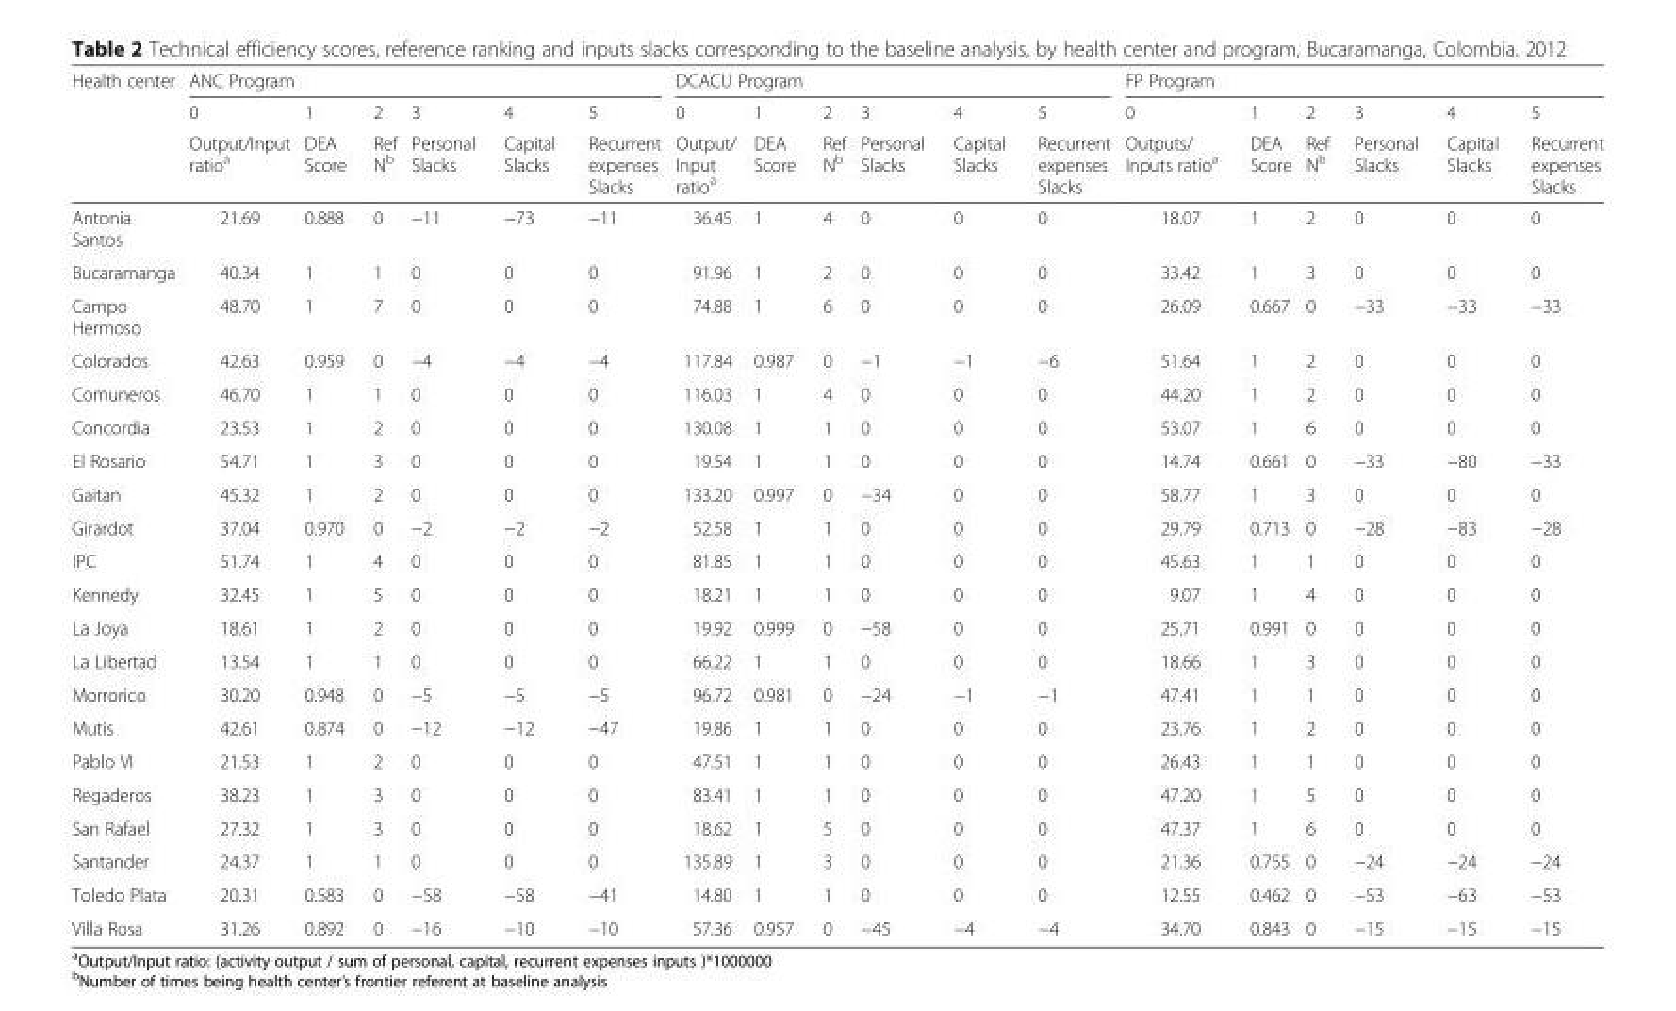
<table><thead><tr><td rowspan="3">Health center</td><td colspan="6">ANC Program</td><td colspan="6">DCACU Program</td><td colspan="6">FP Program</td></tr><tr><td rowspan="2">0 Output/Input ratioa</td><td rowspan="2">1 DEA Score</td><td rowspan="2">2 Ref Nb</td><td rowspan="2">3 Personal Slacks</td><td rowspan="2">4 Capital Slacks</td><td rowspan="2">5 Recurrent expenses Slacks</td><td rowspan="2">0 Output/ Input ratioa</td><td rowspan="2">1 DEA Score</td><td rowspan="2">2 Ref Nb</td><td rowspan="2">3 Personal Slacks</td><td rowspan="2">4 Capital Slacks</td><td rowspan="2">5 Recurrent expenses Slacks</td><td rowspan="2">0 Outputs/ Inputs ratioa</td><td rowspan="2">1 DEA Score</td><td rowspan="2">2 Ref Nb</td><td rowspan="2">3 Personal Slacks</td><td rowspan="2">4 Capital Slacks</td><td rowspan="2">5 Recurrent expenses Slacks</td></tr><tr></tr></thead><tbody><tr><td>Antonia Santos</td><td>21.69</td><td>0.888</td><td>0</td><td>−11</td><td>−73</td><td>−11</td><td>36.45</td><td>1</td><td>4</td><td>0</td><td>0</td><td>0</td><td>18.07</td><td>1</td><td>2</td><td>0</td><td>0</td><td>0</td></tr><tr><td>Bucaramanga</td><td>40.34</td><td>1</td><td>1</td><td>0</td><td>0</td><td>0</td><td>91.96</td><td>1</td><td>2</td><td>0</td><td>0</td><td>0</td><td>33.42</td><td>1</td><td>3</td><td>0</td><td>0</td><td>0</td></tr><tr><td>Campo Hermoso</td><td>48.70</td><td>1</td><td>7</td><td>0</td><td>0</td><td>0</td><td>74.88</td><td>1</td><td>6</td><td>0</td><td>0</td><td>0</td><td>26.09</td><td>0.667</td><td>0</td><td>−33</td><td>−33</td><td>−33</td></tr><tr><td>Colorados</td><td>42.63</td><td>0.959</td><td>0</td><td>−4</td><td>−4</td><td>−4</td><td>117.84</td><td>0.987</td><td>0</td><td>−1</td><td>−1</td><td>−6</td><td>51.64</td><td>1</td><td>2</td><td>0</td><td>0</td><td>0</td></tr><tr><td>Comuneros</td><td>46.70</td><td>1</td><td>1</td><td>0</td><td>0</td><td>0</td><td>116.03</td><td>1</td><td>4</td><td>0</td><td>0</td><td>0</td><td>44.20</td><td>1</td><td>2</td><td>0</td><td>0</td><td>0</td></tr><tr><td>Concordia</td><td>23.53</td><td>1</td><td>2</td><td>0</td><td>0</td><td>0</td><td>130.08</td><td>1</td><td>1</td><td>0</td><td>0</td><td>0</td><td>53.07</td><td>1</td><td>6</td><td>0</td><td>0</td><td>0</td></tr><tr><td>El Rosario</td><td>54.71</td><td>1</td><td>3</td><td>0</td><td>0</td><td>0</td><td>19.54</td><td>1</td><td>1</td><td>0</td><td>0</td><td>0</td><td>14.74</td><td>0.661</td><td>0</td><td>−33</td><td>−80</td><td>−33</td></tr><tr><td>Gaitan</td><td>45.32</td><td>1</td><td>2</td><td>0</td><td>0</td><td>0</td><td>133.20</td><td>0.997</td><td>0</td><td>−34</td><td>0</td><td>0</td><td>58.77</td><td>1</td><td>3</td><td>0</td><td>0</td><td>0</td></tr><tr><td>Girardot</td><td>37.04</td><td>0.970</td><td>0</td><td>−2</td><td>−2</td><td>−2</td><td>52.58</td><td>1</td><td>1</td><td>0</td><td>0</td><td>0</td><td>29.79</td><td>0.713</td><td>0</td><td>−28</td><td>−83</td><td>−28</td></tr><tr><td>IPC</td><td>51.74</td><td>1</td><td>4</td><td>0</td><td>0</td><td>0</td><td>81.85</td><td>1</td><td>1</td><td>0</td><td>0</td><td>0</td><td>45.63</td><td>1</td><td>1</td><td>0</td><td>0</td><td>0</td></tr><tr><td>Kennedy</td><td>32.45</td><td>1</td><td>5</td><td>0</td><td>0</td><td>0</td><td>18.21</td><td>1</td><td>1</td><td>0</td><td>0</td><td>0</td><td>9.07</td><td>1</td><td>4</td><td>0</td><td>0</td><td>0</td></tr><tr><td>La Joya</td><td>18.61</td><td>1</td><td>2</td><td>0</td><td>0</td><td>0</td><td>19.92</td><td>0.999</td><td>0</td><td>−58</td><td>0</td><td>0</td><td>25.71</td><td>0.991</td><td>0</td><td>0</td><td>0</td><td>0</td></tr><tr><td>La Libertad</td><td>13.54</td><td>1</td><td>1</td><td>0</td><td>0</td><td>0</td><td>66.22</td><td>1</td><td>1</td><td>0</td><td>0</td><td>0</td><td>18.66</td><td>1</td><td>3</td><td>0</td><td>0</td><td>0</td></tr><tr><td>Morrorico</td><td>30.20</td><td>0.948</td><td>0</td><td>−5</td><td>−5</td><td>−5</td><td>96.72</td><td>0.981</td><td>0</td><td>−24</td><td>−1</td><td>−1</td><td>47.41</td><td>1</td><td>1</td><td>0</td><td>0</td><td>0</td></tr><tr><td>Mutis</td><td>42.61</td><td>0.874</td><td>0</td><td>−12</td><td>−12</td><td>−47</td><td>19.86</td><td>1</td><td>1</td><td>0</td><td>0</td><td>0</td><td>23.76</td><td>1</td><td>2</td><td>0</td><td>0</td><td>0</td></tr><tr><td>Pablo VI</td><td>21.53</td><td>1</td><td>2</td><td>0</td><td>0</td><td>0</td><td>47.51</td><td>1</td><td>1</td><td>0</td><td>0</td><td>0</td><td>26.43</td><td>1</td><td>1</td><td>0</td><td>0</td><td>0</td></tr><tr><td>Regaderos</td><td>38.23</td><td>1</td><td>3</td><td>0</td><td>0</td><td>0</td><td>83.41</td><td>1</td><td>1</td><td>0</td><td>0</td><td>0</td><td>47.20</td><td>1</td><td>5</td><td>0</td><td>0</td><td>0</td></tr><tr><td>San Rafael</td><td>27.32</td><td>1</td><td>3</td><td>0</td><td>0</td><td>0</td><td>18.62</td><td>1</td><td>5</td><td>0</td><td>0</td><td>0</td><td>47.37</td><td>1</td><td>6</td><td>0</td><td>0</td><td>0</td></tr><tr><td>Santander</td><td>24.37</td><td>1</td><td>1</td><td>0</td><td>0</td><td>0</td><td>135.89</td><td>1</td><td>3</td><td>0</td><td>0</td><td>0</td><td>21.36</td><td>0.755</td><td>0</td><td>−24</td><td>−24</td><td>−24</td></tr><tr><td>Toledo Plata</td><td>20.31</td><td>0.583</td><td>0</td><td>−58</td><td>−58</td><td>−41</td><td>14.80</td><td>1</td><td>1</td><td>0</td><td>0</td><td>0</td><td>12.55</td><td>0.462</td><td>0</td><td>−53</td><td>−63</td><td>−53</td></tr><tr><td>Villa Rosa</td><td>31.26</td><td>0.892</td><td>0</td><td>−16</td><td>−10</td><td>−10</td><td>57.36</td><td>0.957</td><td>0</td><td>−45</td><td>−4</td><td>−4</td><td>34.70</td><td>0.843</td><td>0</td><td>−15</td><td>−15</td><td>−15</td></tr></tbody></table>